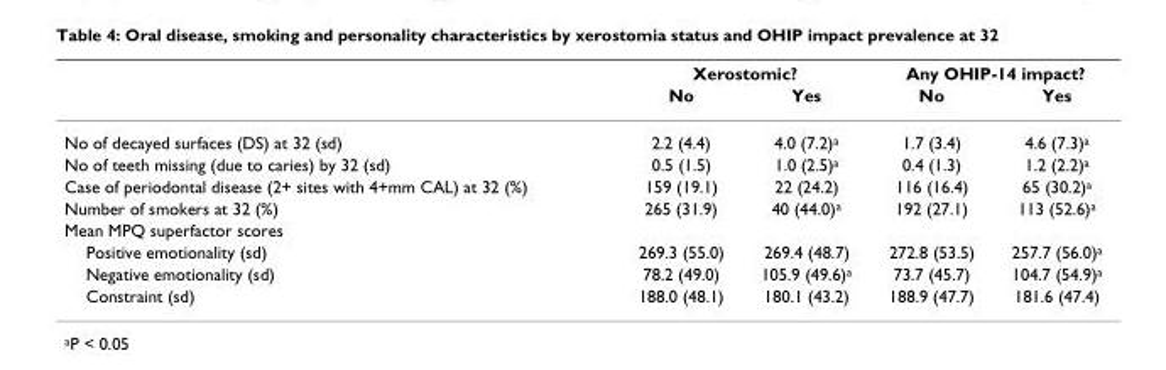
<table><thead><tr><td rowspan="2"></td><td colspan="2">Xerostomic?</td><td colspan="2">Any OHIP-14 impact?</td></tr><tr><td>No</td><td>Yes</td><td>No</td><td>Yes</td></tr></thead><tbody><tr><td>No of decayed surfaces (DS) at 32 (sd)</td><td>2.2 (4.4)</td><td>4.0 (7.2)<sup>a</sup></td><td>1.7 (3.4)</td><td>4.6 (7.3)<sup>a</sup></td></tr><tr><td>No of teeth missing (due to caries) by 32 (sd)</td><td>0.5 (1.5)</td><td>1.0 (2.5)<sup>a</sup></td><td>0.4 (1.3)</td><td>1.2 (2.2)<sup>a</sup></td></tr><tr><td>Case of periodontal disease (2+ sites with 4+mm CAL) at 32 (%)</td><td>159 (19.1)</td><td>22 (24.2)</td><td>116 (16.4)</td><td>65 (30.2)<sup>a</sup></td></tr><tr><td>Number of smokers at 32 (%)</td><td>265 (31.9)</td><td>40 (44.0)<sup>a</sup></td><td>192 (27.1)</td><td>113 (52.6)<sup>a</sup></td></tr><tr><td colspan="5">Mean MPQ superfactor scores</td></tr><tr><td>Positive emotionality (sd)</td><td>269.3 (55.0)</td><td>269.4 (48.7)</td><td>272.8 (53.5)</td><td>257.7 (56.0)<sup>a</sup></td></tr><tr><td>Negative emotionality (sd)</td><td>78.2 (49.0)</td><td>105.9 (49.6)<sup>a</sup></td><td>73.7 (45.7)</td><td>104.7 (54.9)<sup>a</sup></td></tr><tr><td>Constraint (sd)</td><td>188.0 (48.1)</td><td>180.1 (43.2)</td><td>188.9 (47.7)</td><td>181.6 (47.4)</td></tr></tbody></table>